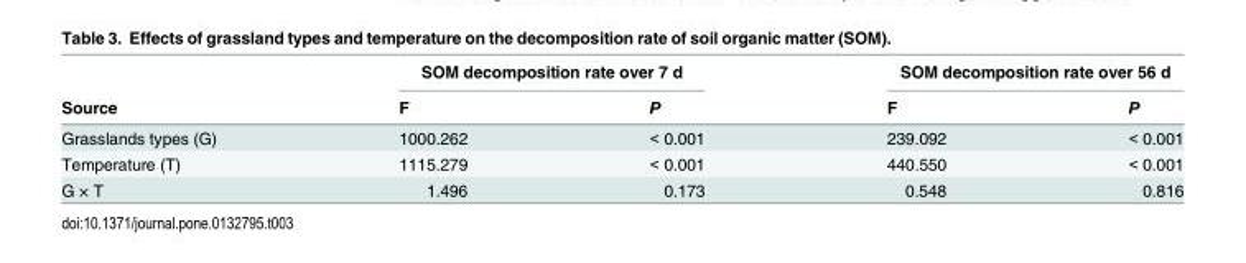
<table><thead><tr><td rowspan="2">Source</td><td colspan="2">SOM decomposition rate over 7 d</td><td colspan="2">SOM decomposition rate over 56 d</td></tr><tr><td>F</td><td>P</td><td>F</td><td>P</td></tr></thead><tbody><tr><td>Grasslands types (G)</td><td>1000.262</td><td>&lt; 0.001</td><td>239.092</td><td>&lt; 0.001</td></tr><tr><td>Temperature (T)</td><td>1115.279</td><td>&lt; 0.001</td><td>440.550</td><td>&lt; 0.001</td></tr><tr><td>G × T</td><td>1.496</td><td>0.173</td><td>0.548</td><td>0.816</td></tr></tbody></table>